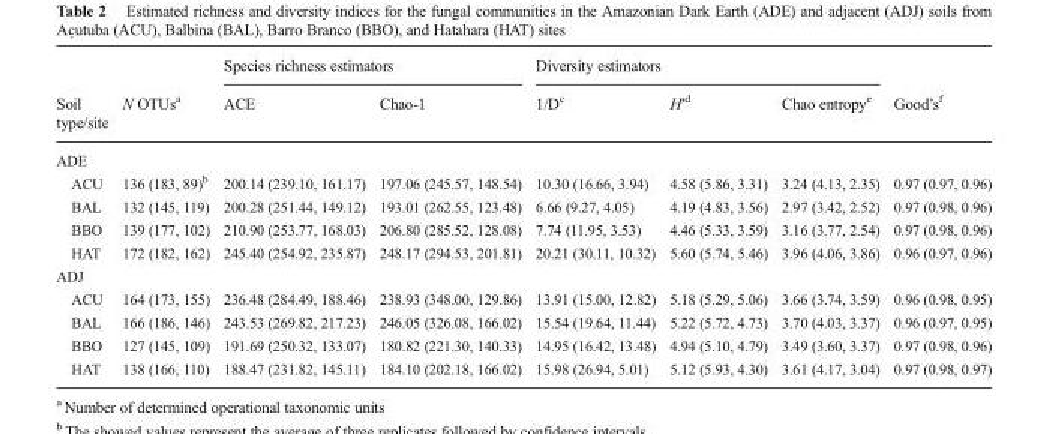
<table><thead><tr><td rowspan="2">Soil type/site</td><td rowspan="2">N OTUs<sup>a</sup></td><td colspan="2">Species richness estimators</td><td colspan="3">Diversity estimators</td><td rowspan="2">Good’s<sup>f</sup></td></tr><tr><td>ACE</td><td>Chao-1</td><td>1/D<sup>c</sup></td><td>H′<sup>d</sup></td><td>Chao entropy<sup>e</sup></td></tr></thead><tbody><tr><td colspan="8">ADE</td></tr><tr><td>ACU</td><td>136 (183, 89)<sup>b</sup></td><td>200.14 (239.10, 161.17)</td><td>197.06 (245.57, 148.54)</td><td>10.30 (16.66, 3.94)</td><td>4.58 (5.86, 3.31)</td><td>3.24 (4.13, 2.35)</td><td>0.97 (0.97, 0.96)</td></tr><tr><td>BAL</td><td>132 (145, 119)</td><td>200.28 (251.44, 149.12)</td><td>193.01 (262.55, 123.48)</td><td>6.66 (9.27, 4.05)</td><td>4.19 (4.83, 3.56)</td><td>2.97 (3.42, 2.52)</td><td>0.97 (0.98, 0.96)</td></tr><tr><td>BBO</td><td>139 (177, 102)</td><td>210.90 (253.77, 168.03)</td><td>206.80 (285.52, 128.08)</td><td>7.74 (11.95, 3.53)</td><td>4.46 (5.33, 3.59)</td><td>3.16 (3.77, 2.54)</td><td>0.97 (0.98, 0.96)</td></tr><tr><td>HAT</td><td>172 (182, 162)</td><td>245.40 (254.92, 235.87)</td><td>248.17 (294.53, 201.81)</td><td>20.21 (30.11, 10.32)</td><td>5.60 (5.74, 5.46)</td><td>3.96 (4.06, 3.86)</td><td>0.96 (0.97, 0.96)</td></tr><tr><td colspan="8">ADJ</td></tr><tr><td>ACU</td><td>164 (173, 155)</td><td>236.48 (284.49, 188.46)</td><td>238.93 (348.00, 129.86)</td><td>13.91 (15.00, 12.82)</td><td>5.18 (5.29, 5.06)</td><td>3.66 (3.74, 3.59)</td><td>0.96 (0.98, 0.95)</td></tr><tr><td>BAL</td><td>166 (186, 146)</td><td>243.53 (269.82, 217.23)</td><td>246.05 (326.08, 166.02)</td><td>15.54 (19.64, 11.44)</td><td>5.22 (5.72, 4.73)</td><td>3.70 (4.03, 3.37)</td><td>0.96 (0.97, 0.95)</td></tr><tr><td>BBO</td><td>127 (145, 109)</td><td>191.69 (250.32, 133.07)</td><td>180.82 (221.30, 140.33)</td><td>14.95 (16.42, 13.48)</td><td>4.94 (5.10, 4.79)</td><td>3.49 (3.60, 3.37)</td><td>0.97 (0.98, 0.96)</td></tr><tr><td>HAT</td><td>138 (166, 110)</td><td>188.47 (231.82, 145.11)</td><td>184.10 (202.18, 166.02)</td><td>15.98 (26.94, 5.01)</td><td>5.12 (5.93, 4.30)</td><td>3.61 (4.17, 3.04)</td><td>0.97 (0.98, 0.97)</td></tr></tbody></table>